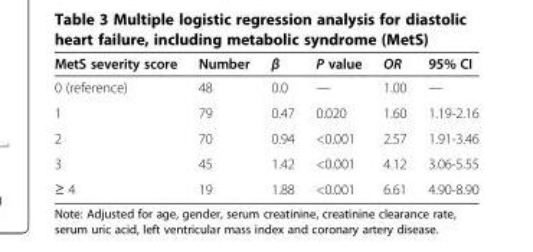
<table><thead><tr><td>MetS severity score</td><td>Number</td><td>β</td><td>P value</td><td>OR</td><td>95% CI</td></tr></thead><tbody><tr><td>0 (reference)</td><td>48</td><td>0.0</td><td>—</td><td>1.00</td><td>—</td></tr><tr><td>1</td><td>79</td><td>0.47</td><td>0.020</td><td>1.60</td><td>1.19-2.16</td></tr><tr><td>2</td><td>70</td><td>0.94</td><td>&lt;0.001</td><td>2.57</td><td>1.91-3.46</td></tr><tr><td>3</td><td>45</td><td>1.42</td><td>&lt;0.001</td><td>4.12</td><td>3.06-5.55</td></tr><tr><td>≥ 4</td><td>19</td><td>1.88</td><td>&lt;0.001</td><td>6.61</td><td>4.90-8.90</td></tr></tbody></table>